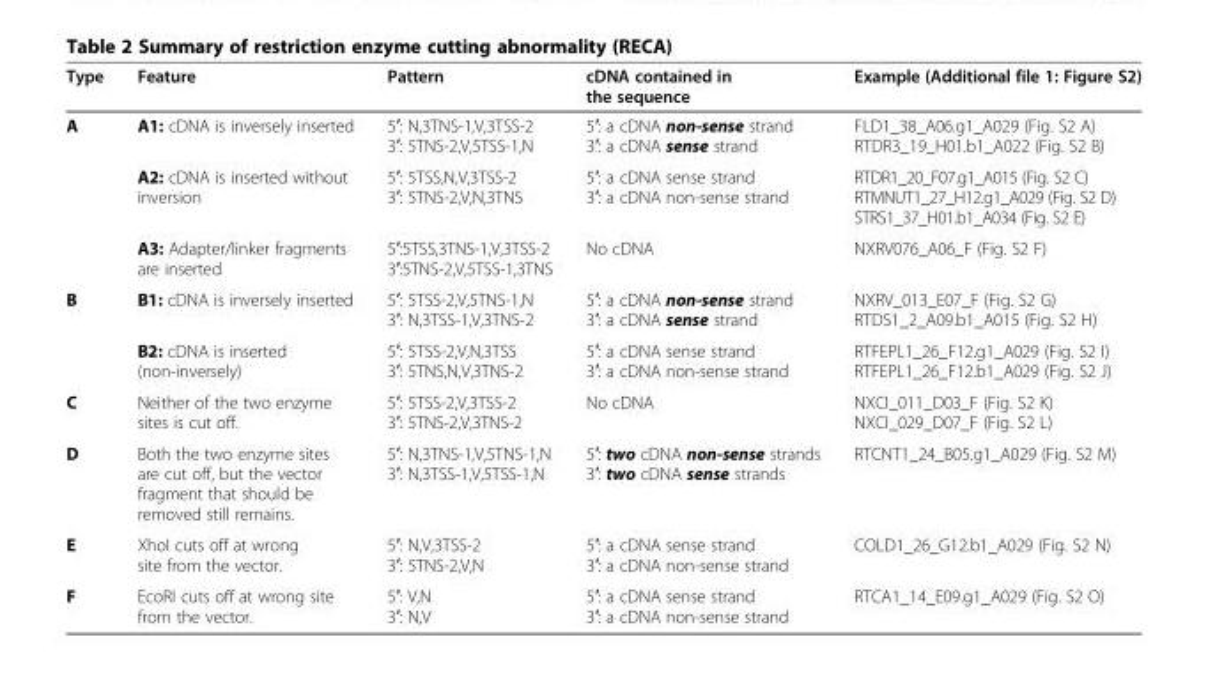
<table><thead><tr><td>Type</td><td>Feature</td><td>Pattern</td><td>cDNA contained in the sequence</td><td>Example (Additional file 1: Figure S2)</td></tr></thead><tbody><tr><td rowspan="3">A</td><td>A1: cDNA is inversely inserted</td><td>5′: N,3TNS-1,V,3TSS-2 3′: 5TNS-2,V,5TSS-1,N</td><td>5′: a cDNA non-sense strand 3′: a cDNA sense strand</td><td>FLD1_38_A06.g1_A029 (Fig. S2 A) RTDR3_19_H01.b1_A022 (Fig. S2 B)</td></tr><tr><td>A2: cDNA is inserted without inversion</td><td>5′: 5TSS,N,V,3TSS-2 3′: 5TNS-2,V,N,3TNS</td><td>5′: a cDNA sense strand 3′: a cDNA non-sense strand</td><td>RTDR1_20_F07.g1_A015 (Fig. S2 C) RTMNUT1_27_H12.g1_A029 (Fig. S2 D) STRS1_37_H01.b1_A034 (Fig. S2 E)</td></tr><tr><td>A3: Adapter/linker fragments are inserted</td><td>5′:5TSS,3TNS-1,V,3TSS-2 3′:5TNS-2,V,5TSS-1,3TNS</td><td>No cDNA</td><td>NXRV076_A06_F (Fig. S2 F)</td></tr><tr><td rowspan="2">B</td><td>B1: cDNA is inversely inserted</td><td>5′: 5TSS-2,V,5TNS-1,N 3′: N,3TSS-1,V,3TNS-2</td><td>5′: a cDNA non-sense strand 3′: a cDNA sense strand</td><td>NXRV_013_E07_F (Fig. S2 G) RTDS1_2_A09.b1_A015 (Fig. S2 H)</td></tr><tr><td>B2: cDNA is inserted (non-inversely)</td><td>5′: 5TSS-2,V,N,3TSS 3′: 5TNS,N,V,3TNS-2</td><td>5′: a cDNA sense strand 3′: a cDNA non-sense strand</td><td>RTFEPL1_26_F12.g1_A029 (Fig. S2 I) RTFEPL1_26_F12.b1_A029 (Fig. S2 J)</td></tr><tr><td>C</td><td>Neither of the two enzyme sites is cut off.</td><td>5′: 5TSS-2,V,3TSS-2 3′: 5TNS-2,V,3TNS-2</td><td>No cDNA</td><td>NXCI_011_D03_F (Fig. S2 K) NXCI_029_D07_F (Fig. S2 L)</td></tr><tr><td>D</td><td>Both the two enzyme sites are cut off, but the vector fragment that should be removed still remains.</td><td>5′: N,3TNS-1,V,5TNS-1,N 3′: N,3TSS-1,V,5TSS-1,N</td><td>5′: two cDNA non-sense strands 3′: two cDNA sense strands</td><td>RTCNT1_24_B05.g1_A029 (Fig. S2 M)</td></tr><tr><td>E</td><td>XhoI cuts off at wrong site from the vector.</td><td>5′: N,V,3TSS-2 3′: 5TNS-2,V,N</td><td>5′: a cDNA sense strand 3′: a cDNA non-sense strand</td><td>COLD1_26_G12.b1_A029 (Fig. S2 N)</td></tr><tr><td>F</td><td>EcoRI cuts off at wrong site from the vector.</td><td>5′: V,N 3′: N,V</td><td>5′: a cDNA sense strand 3′: a cDNA non-sense strand</td><td>RTCA1_14_E09.g1_A029 (Fig. S2 O)</td></tr></tbody></table>